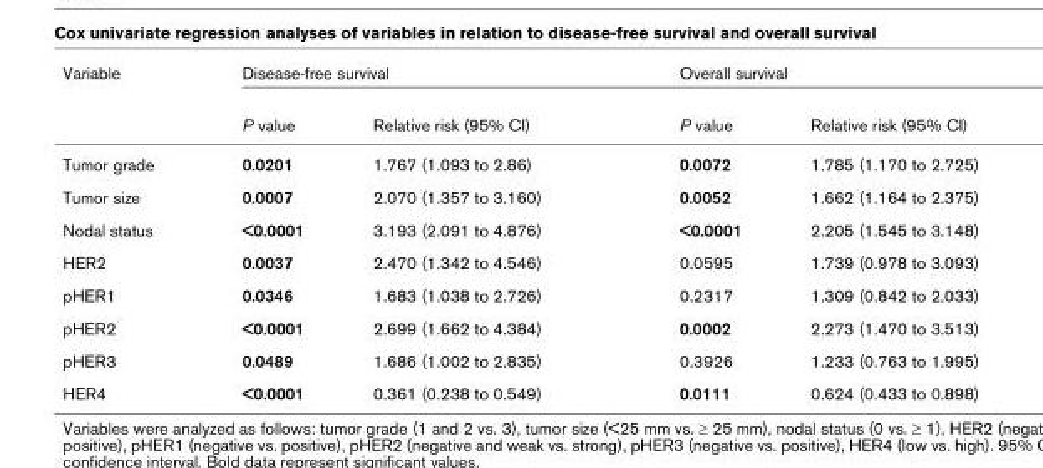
<table><thead><tr><td rowspan="2">Variable</td><td colspan="2">Disease-free survival</td><td colspan="2">Overall survival</td></tr><tr><td>P value</td><td>Relative risk (95% CI)</td><td>P value</td><td>Relative risk (95% CI)</td></tr></thead><tbody><tr><td>Tumor grade</td><td>0.0201</td><td>1.767 (1.093 to 2.86)</td><td>0.0072</td><td>1.785 (1.170 to 2.725)</td></tr><tr><td>Tumor size</td><td>0.0007</td><td>2.070 (1.357 to 3.160)</td><td>0.0052</td><td>1.662 (1.164 to 2.375)</td></tr><tr><td>Nodal status</td><td>&lt;0.0001</td><td>3.193 (2.091 to 4.876)</td><td>&lt;0.0001</td><td>2.205 (1.545 to 3.148)</td></tr><tr><td>HER2</td><td>0.0037</td><td>2.470 (1.342 to 4.546)</td><td>0.0595</td><td>1.739 (0.978 to 3.093)</td></tr><tr><td>pHER1</td><td>0.0346</td><td>1.683 (1.038 to 2.726)</td><td>0.2317</td><td>1.309 (0.842 to 2.033)</td></tr><tr><td>pHER2</td><td>&lt;0.0001</td><td>2.699 (1.662 to 4.384)</td><td>0.0002</td><td>2.273 (1.470 to 3.513)</td></tr><tr><td>pHER3</td><td>0.0489</td><td>1.686 (1.002 to 2.835)</td><td>0.3926</td><td>1.233 (0.763 to 1.995)</td></tr><tr><td>HER4</td><td>&lt;0.0001</td><td>0.361 (0.238 to 0.549)</td><td>0.0111</td><td>0.624 (0.433 to 0.898)</td></tr></tbody></table>